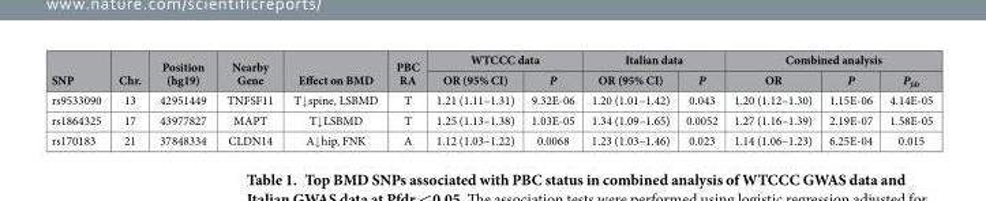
<table><thead><tr><td rowspan="2">SNP</td><td rowspan="2">Chr.</td><td rowspan="2">Position (hg19)</td><td rowspan="2">Nearby Gene</td><td rowspan="2">Effect on BMD</td><td rowspan="2">PBC RA</td><td colspan="2">WTCCC data</td><td colspan="2">Italian data</td><td colspan="3">Combined analysis</td></tr><tr><td>OR (95% CI)</td><td>P</td><td>OR (95% CI)</td><td>P</td><td>OR</td><td>P</td><td>P<sub>fdr</sub></td></tr></thead><tbody><tr><td>rs9533090</td><td>13</td><td>42951449</td><td>TNFSF11</td><td>T↓ spine, LSBMD</td><td>T</td><td>1.21 (1.11–1.31)</td><td>9.32E-06</td><td>1.20 (1.01–1.42)</td><td>0.043</td><td>1.20 (1.12–1.30)</td><td>1.15E-06</td><td>4.14E-05</td></tr><tr><td>rs1864325</td><td>17</td><td>43977827</td><td>MAPT</td><td>T↓ LSBMD</td><td>T</td><td>1.25 (1.13–1.38)</td><td>1.03E-05</td><td>1.34 (1.09–1.65)</td><td>0.0052</td><td>1.27 (1.16–1.39)</td><td>2.19E-07</td><td>1.58E-05</td></tr><tr><td>rs170183</td><td>21</td><td>37848334</td><td>CLDN14</td><td>A↓ hip, FNK</td><td>A</td><td>1.12 (1.03–1.22)</td><td>0.0068</td><td>1.23 (1.03–1.46)</td><td>0.023</td><td>1.14 (1.06–1.23)</td><td>6.25E-04</td><td>0.015</td></tr></tbody></table>